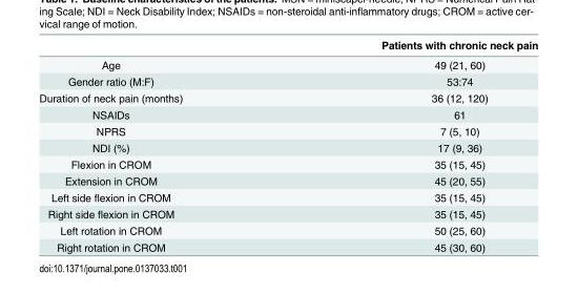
<table><thead><tr><td></td><td>Patients with chronic neck pain</td></tr></thead><tbody><tr><td>Age</td><td>49 (21, 60)</td></tr><tr><td>Gender ratio (M:F)</td><td>53:74</td></tr><tr><td>Duration of neck pain (months)</td><td>36 (12, 120)</td></tr><tr><td>NSAIDs</td><td>61</td></tr><tr><td>NPRS</td><td>7 (5, 10)</td></tr><tr><td>NDI (%)</td><td>17 (9, 36)</td></tr><tr><td>Flexion in CROM</td><td>35 (15, 45)</td></tr><tr><td>Extension in CROM</td><td>45 (20, 55)</td></tr><tr><td>Left side flexion in CROM</td><td>35 (15, 45)</td></tr><tr><td>Right side flexion in CROM</td><td>35 (15, 45)</td></tr><tr><td>Left rotation in CROM</td><td>50 (25, 60)</td></tr><tr><td>Right rotation in CROM</td><td>45 (30, 60)</td></tr></tbody></table>